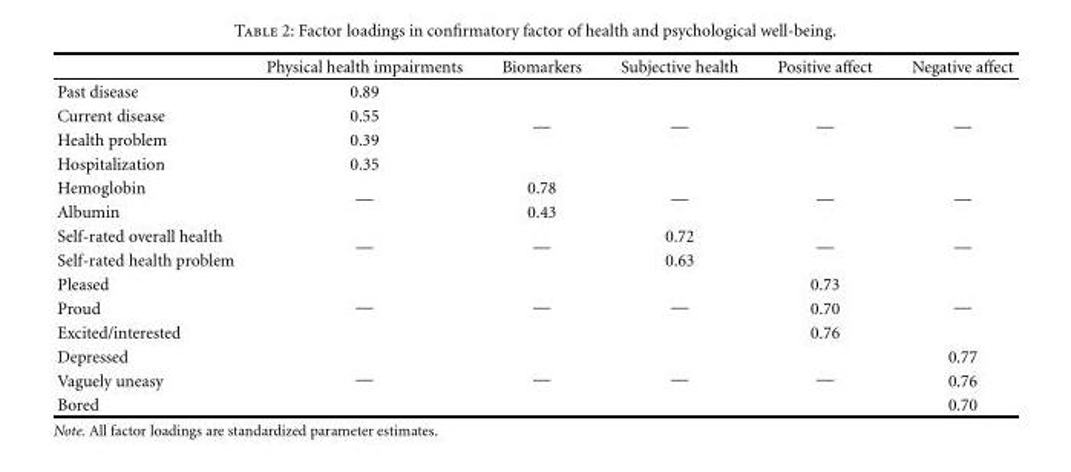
<table><thead><tr><td></td><td>Physical health impairments</td><td>Biomarkers</td><td>Subjective health</td><td>Positive affect</td><td>Negative affect</td></tr></thead><tbody><tr><td>Past disease</td><td>0.89</td><td rowspan="4">—</td><td rowspan="4">—</td><td rowspan="4">—</td><td rowspan="4">—</td></tr><tr><td>Current disease</td><td>0.55</td></tr><tr><td>Health problem</td><td>0.39</td></tr><tr><td>Hospitalization</td><td>0.35</td></tr><tr><td>Hemoglobin</td><td rowspan="2">—</td><td>0.78</td><td rowspan="2">—</td><td rowspan="2">—</td><td rowspan="2">—</td></tr><tr><td>Albumin</td><td>0.43</td></tr><tr><td>Self-rated overall health</td><td rowspan="2">—</td><td rowspan="2">—</td><td>0.72</td><td rowspan="2">—</td><td rowspan="2">—</td></tr><tr><td>Self-rated health problem</td><td>0.63</td></tr><tr><td>Pleased</td><td rowspan="3">—</td><td rowspan="3">—</td><td rowspan="3">—</td><td>0.73</td><td rowspan="3">—</td></tr><tr><td>Proud</td><td>0.70</td></tr><tr><td>Excited/interested</td><td>0.76</td></tr><tr><td>Depressed</td><td rowspan="3">—</td><td rowspan="3">—</td><td rowspan="3">—</td><td rowspan="3">—</td><td>0.77</td></tr><tr><td>Vaguely uneasy</td><td>0.76</td></tr><tr><td>Bored</td><td>0.70</td></tr></tbody></table>